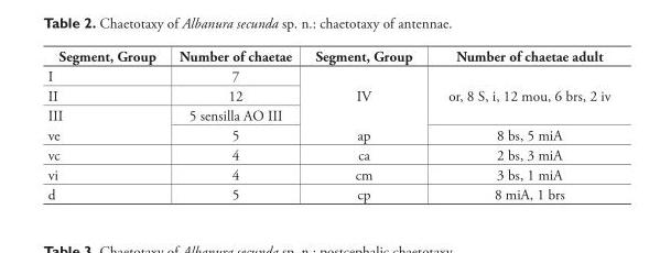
<table><thead><tr><td>Segment, Group</td><td>Number of chaetae</td><td>Segment, Group</td><td>Number of chaetae adult</td></tr></thead><tbody><tr><td>I</td><td>7</td><td rowspan="3">IV</td><td rowspan="3">or, 8 S, i, 12 mou, 6 brs, 2 iv</td></tr><tr><td>II</td><td>12</td></tr><tr><td>III</td><td>5 sensilla AO III</td></tr><tr><td>ve</td><td>5</td><td>ap</td><td>8 bs, 5 miA</td></tr><tr><td>vc</td><td>4</td><td>ca</td><td>2 bs, 3 miA</td></tr><tr><td>vi</td><td>4</td><td>cm</td><td>3 bs, 1 miA</td></tr><tr><td>d</td><td>5</td><td>cp</td><td>8 miA, 1 brs</td></tr></tbody></table>